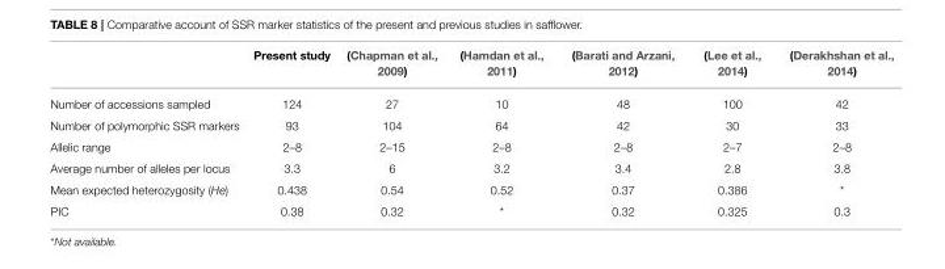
<table><thead><tr><td></td><td>Present study</td><td>(Chapman et al., 2009)</td><td>(Hamdan et al., 2011)</td><td>(Barati and Arzani, 2012)</td><td>(Lee et al., 2014)</td><td>(Derakhshan et al., 2014)</td></tr></thead><tbody><tr><td>Number of accessions sampled</td><td>124</td><td>27</td><td>10</td><td>48</td><td>100</td><td>42</td></tr><tr><td>Number of polymorphic SSR markers</td><td>93</td><td>104</td><td>64</td><td>42</td><td>30</td><td>33</td></tr><tr><td>Allelic range</td><td>2–8</td><td>2–15</td><td>2–8</td><td>2–8</td><td>2–7</td><td>2–8</td></tr><tr><td>Average number of alleles per locus</td><td>3.3</td><td>6</td><td>3.2</td><td>3.4</td><td>2.8</td><td>3.8</td></tr><tr><td>Mean expected heterozygosity (He)</td><td>0.438</td><td>0.54</td><td>0.52</td><td>0.37</td><td>0.386</td><td>*</td></tr><tr><td>PIC</td><td>0.38</td><td>0.32</td><td>*</td><td>0.32</td><td>0.325</td><td>0.3</td></tr></tbody></table>